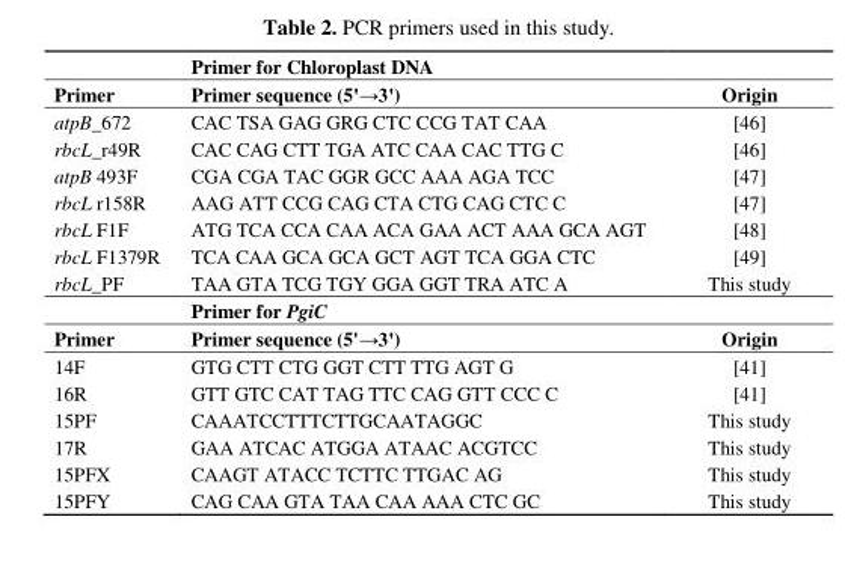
<table><thead><tr><td rowspan="2">Primer</td><td rowspan="2">Primer for Chloroplast DNA Primer sequence (5&#x27;→3&#x27;)</td><td rowspan="2">Origin</td></tr><tr></tr></thead><tbody><tr><td>atpB_672</td><td>CAC TSA GAG GRG CTC CCG TAT CAA</td><td>[46]</td></tr><tr><td>rbcL_r49R</td><td>CAC CAG CTT TGA ATC CAA CAC TTG C</td><td>[46]</td></tr><tr><td>atpB 493F</td><td>CGA CGA TAC GGR GCC AAA AGA TCC</td><td>[47]</td></tr><tr><td>rbcL r158R</td><td>AAG ATT CCG CAG CTA CTG CAG CTC C</td><td>[47]</td></tr><tr><td>rbcL F1F</td><td>ATG TCA CCA CAA ACA GAA ACT AAA GCA AGT</td><td>[48]</td></tr><tr><td>rbcL F1379R</td><td>TCA CAA GCA GCA GCT AGT TCA GGA CTC</td><td>[49]</td></tr><tr><td rowspan="2">rbcL_PF</td><td>TAA GTA TCG TGY GGA GGT TRA ATC A</td><td>This study</td></tr><tr><td>Primer for PgiC</td><td></td></tr><tr><td>Primer</td><td>Primer sequence (5&#x27;→3&#x27;)</td><td>Origin</td></tr><tr><td>14F</td><td>GTG CTT CTG GGT CTT TTG AGT G</td><td>[41]</td></tr><tr><td>16R</td><td>GTT GTC CAT TAG TTC CAG GTT CCC C</td><td>[41]</td></tr><tr><td>15PF</td><td>CAAATCCTTTCTTGCAATAGGC</td><td>This study</td></tr><tr><td>17R</td><td>GAA ATCAC ATGGA ATAAC ACGTCC</td><td>This study</td></tr><tr><td>15PFX</td><td>CAAGT ATACC TCTTC TTGAC AG</td><td>This study</td></tr><tr><td>15PFY</td><td>CAG CAA GTA TAA CAA AAA CTC GC</td><td>This study</td></tr></tbody></table>